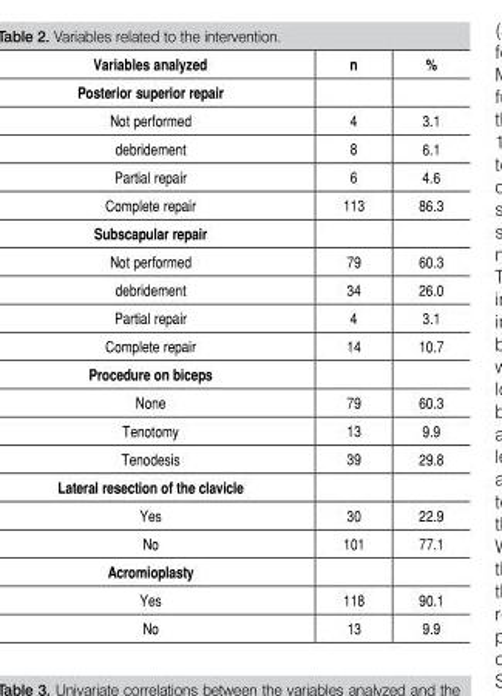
<table><thead><tr><td>Variables analyzed</td><td>n</td><td>%</td></tr></thead><tbody><tr><td colspan="3">Posterior superior repair</td></tr><tr><td>Not performed</td><td>4</td><td>3.1</td></tr><tr><td>debridement</td><td>8</td><td>6.1</td></tr><tr><td>Partial repair</td><td>6</td><td>4.6</td></tr><tr><td>Complete repair</td><td>113</td><td>86.3</td></tr><tr><td colspan="3">Subscapular repair</td></tr><tr><td>Not performed</td><td>79</td><td>60.3</td></tr><tr><td>debridement</td><td>34</td><td>26.0</td></tr><tr><td>Partial repair</td><td>4</td><td>3.1</td></tr><tr><td>Complete repair</td><td>14</td><td>10.7</td></tr><tr><td colspan="3">Procedure on biceps</td></tr><tr><td>None</td><td>79</td><td>60.3</td></tr><tr><td>Tenotomy</td><td>13</td><td>9.9</td></tr><tr><td>Tenodesis</td><td>39</td><td>29.8</td></tr><tr><td colspan="3">Lateral resection of the clavicle</td></tr><tr><td>Yes</td><td>30</td><td>22.9</td></tr><tr><td>No</td><td>101</td><td>77.1</td></tr><tr><td colspan="3">Acromioplasty</td></tr><tr><td>Yes</td><td>118</td><td>90.1</td></tr><tr><td>No</td><td>13</td><td>9.9</td></tr></tbody></table>